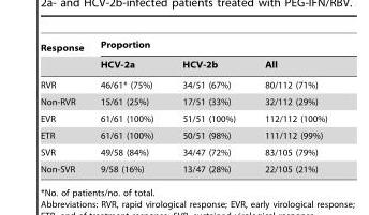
<table><thead><tr><td rowspan="2">Response</td><td colspan="3">Proportion</td></tr><tr><td>HCV-2a</td><td>HCV-2b</td><td>All</td></tr></thead><tbody><tr><td>RVR</td><td>46/61* (75%)</td><td>34/51 (67%)</td><td>80/112 (71%)</td></tr><tr><td>Non-RVR</td><td>15/61 (25%)</td><td>17/51 (33%)</td><td>32/112 (29%)</td></tr><tr><td>EVR</td><td>61/61 (100%)</td><td>51/51 (100%)</td><td>112/112 (100%)</td></tr><tr><td>ETR</td><td>61/61 (100%)</td><td>50/51 (98%)</td><td>111/112 (99%)</td></tr><tr><td>SVR</td><td>49/58 (84%)</td><td>34/47 (72%)</td><td>83/105 (79%)</td></tr><tr><td>Non-SVR</td><td>9/58 (16%)</td><td>13/47 (28%)</td><td>22/105 (21%)</td></tr></tbody></table>